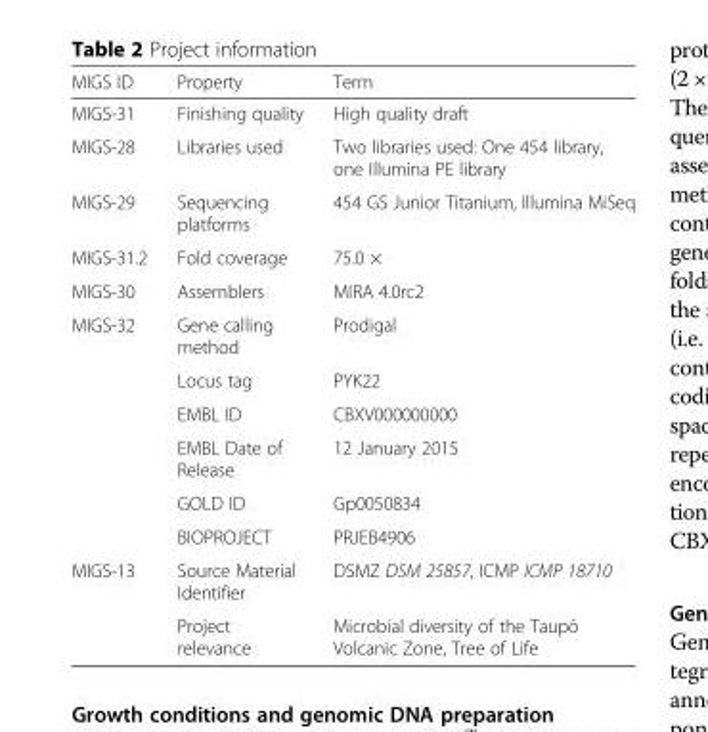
<table><thead><tr><td>MIGS ID</td><td>Property</td><td>Term</td></tr></thead><tbody><tr><td>MIGS-31</td><td>Finishing quality</td><td>High quality draft</td></tr><tr><td>MIGS-28</td><td>Libraries used</td><td>Two libraries used: One 454 library, one Illumina PE library</td></tr><tr><td>MIGS-29</td><td>Sequencing platforms</td><td>454 GS Junior Titanium, Illumina MiSeq</td></tr><tr><td>MIGS-31.2</td><td>Fold coverage</td><td>75.0 ×</td></tr><tr><td>MIGS-30</td><td>Assemblers</td><td>MIRA 4.0rc2</td></tr><tr><td rowspan="6">MIGS-32</td><td>Gene calling method</td><td>Prodigal</td></tr><tr><td>Locus tag</td><td>PYK22</td></tr><tr><td>EMBL ID</td><td>CBXV000000000</td></tr><tr><td>EMBL Date of Release</td><td>12 January 2015</td></tr><tr><td>GOLD ID</td><td>Gp0050834</td></tr><tr><td>BIOPROJECT</td><td>PRJEB4906</td></tr><tr><td rowspan="2">MIGS-13</td><td>Source Material Identifier</td><td>DSMZ DSM 25857, ICMP ICMP 18710</td></tr><tr><td>Project relevance</td><td>Microbial diversity of the Taupō Volcanic Zone, Tree of Life</td></tr></tbody></table>